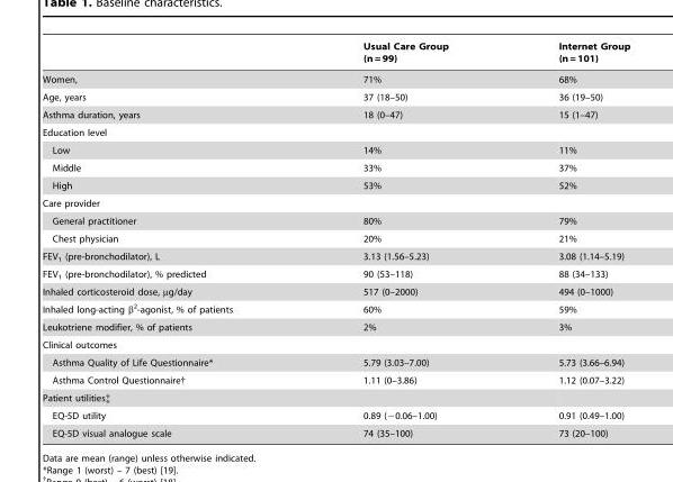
<table><thead><tr><td></td><td>Usual Care Group (n = 99)</td><td>Internet Group (n = 101)</td></tr></thead><tbody><tr><td>Women,</td><td>71%</td><td>68%</td></tr><tr><td>Age, years</td><td>37 (18–50)</td><td>36 (19–50)</td></tr><tr><td>Asthma duration, years</td><td>18 (0–47)</td><td>15 (1–47)</td></tr><tr><td colspan="3">Education level</td></tr><tr><td>Low</td><td>14%</td><td>11%</td></tr><tr><td>Middle</td><td>33%</td><td>37%</td></tr><tr><td>High</td><td>53%</td><td>52%</td></tr><tr><td colspan="3">Care provider</td></tr><tr><td>General practitioner</td><td>80%</td><td>79%</td></tr><tr><td>Chest physician</td><td>20%</td><td>21%</td></tr><tr><td>FEV<sub>1</sub> (pre-bronchodilator), L</td><td>3.13 (1.56–5.23)</td><td>3.08 (1.14–5.19)</td></tr><tr><td>FEV<sub>1</sub> (pre-bronchodilator), % predicted</td><td>90 (53–118)</td><td>88 (34–133)</td></tr><tr><td>Inhaled corticosteroid dose, µg/day</td><td>517 (0–2000)</td><td>494 (0–1000)</td></tr><tr><td>Inhaled long-acting β<sup>2</sup>-agonist, % of patients</td><td>60%</td><td>59%</td></tr><tr><td>Leukotriene modifier, % of patients</td><td>2%</td><td>3%</td></tr><tr><td colspan="3">Clinical outcomes</td></tr><tr><td>Asthma Quality of Life Questionnaire*</td><td>5.79 (3.03–7.00)</td><td>5.73 (3.66–6.94)</td></tr><tr><td>Asthma Control Questionnaire†</td><td>1.11 (0–3.86)</td><td>1.12 (0.07–3.22)</td></tr><tr><td colspan="3">Patient utilities‡</td></tr><tr><td>EQ-5D utility</td><td>0.89 (−0.06–1.00)</td><td>0.91 (0.49–1.00)</td></tr><tr><td>EQ-5D visual analogue scale</td><td>74 (35–100)</td><td>73 (20–100)</td></tr></tbody></table>